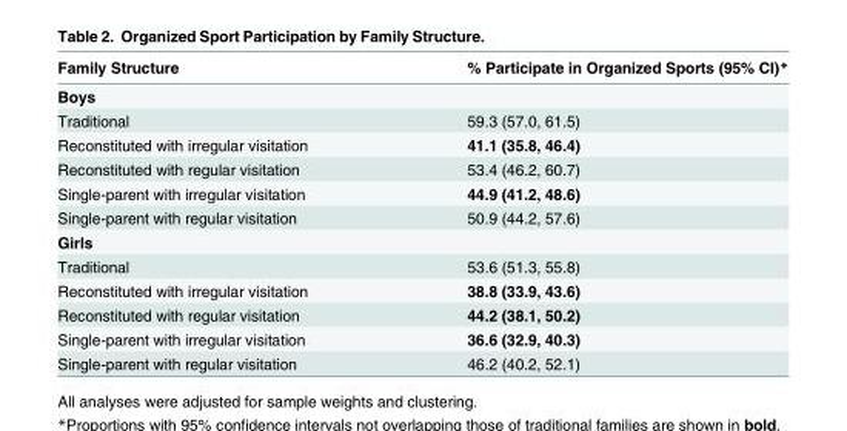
<table><thead><tr><td>Family Structure</td><td>% Participate in Organized Sports (95% CI)*</td></tr></thead><tbody><tr><td colspan="2">Boys</td></tr><tr><td>Traditional</td><td>59.3 (57.0, 61.5)</td></tr><tr><td>Reconstituted with irregular visitation</td><td>41.1 (35.8, 46.4)</td></tr><tr><td>Reconstituted with regular visitation</td><td>53.4 (46.2, 60.7)</td></tr><tr><td>Single-parent with irregular visitation</td><td>44.9 (41.2, 48.6)</td></tr><tr><td>Single-parent with regular visitation</td><td>50.9 (44.2, 57.6)</td></tr><tr><td colspan="2">Girls</td></tr><tr><td>Traditional</td><td>53.6 (51.3, 55.8)</td></tr><tr><td>Reconstituted with irregular visitation</td><td>38.8 (33.9, 43.6)</td></tr><tr><td>Reconstituted with regular visitation</td><td>44.2 (38.1, 50.2)</td></tr><tr><td>Single-parent with irregular visitation</td><td>36.6 (32.9, 40.3)</td></tr><tr><td>Single-parent with regular visitation</td><td>46.2 (40.2, 52.1)</td></tr></tbody></table>